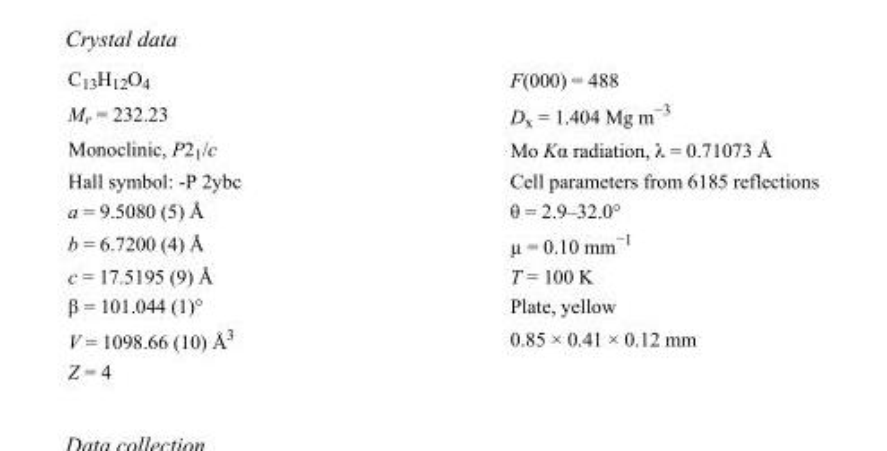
<table><tbody><tr><td>C<sub>13</sub>H<sub>12</sub>O<sub>4</sub></td><td>F(000) = 488</td></tr><tr><td>M<sub>r</sub> = 232.23</td><td>D<sub>x</sub> = 1.404 Mg m<sup>−3</sup></td></tr><tr><td>Monoclinic, P2<sub>1</sub>/c</td><td>Mo Kα radiation, λ = 0.71073 Å</td></tr><tr><td>Hall symbol: -P 2ybc</td><td>Cell parameters from 6185 reflections</td></tr><tr><td>a = 9.5080 (5) Å</td><td>θ = 2.9–32.0°</td></tr><tr><td>b = 6.7200 (4) Å</td><td>µ = 0.10 mm<sup>−1</sup></td></tr><tr><td>c = 17.5195 (9) Å</td><td>T = 100 K</td></tr><tr><td>β = 101.044 (1)°</td><td>Plate, yellow</td></tr><tr><td>V = 1098.66 (10) Å<sup>3</sup></td><td>0.85 × 0.41 × 0.12 mm</td></tr><tr><td>Z = 4</td><td></td></tr></tbody></table>